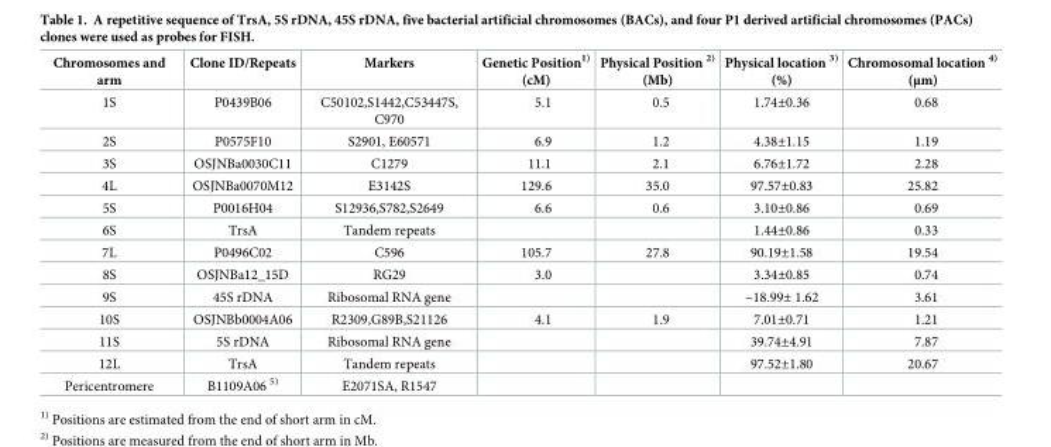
<table><thead><tr><td>Chromosomes and arm</td><td>Clone ID/Repeats</td><td>Markers</td><td>Genetic Position<sup>1)</sup> (cM)</td><td>Physical Position <sup>2)</sup> (Mb)</td><td>Physical location <sup>3)</sup> (%)</td><td>Chromosomal location <sup>4)</sup> (μm)</td></tr></thead><tbody><tr><td>1S</td><td>P0439B06</td><td>C50102,S1442,C53447S, C970</td><td>5.1</td><td>0.5</td><td>1.74±0.36</td><td>0.68</td></tr><tr><td>2S</td><td>P0575F10</td><td>S2901, E60571</td><td>6.9</td><td>1.2</td><td>4.38±1.15</td><td>1.19</td></tr><tr><td>3S</td><td>OSJNBa0030C11</td><td>C1279</td><td>11.1</td><td>2.1</td><td>6.76±1.72</td><td>2.28</td></tr><tr><td>4L</td><td>OSJNBa0070M12</td><td>E3142S</td><td>129.6</td><td>35.0</td><td>97.57±0.83</td><td>25.82</td></tr><tr><td>5S</td><td>P0016H04</td><td>S12936,S782,S2649</td><td>6.6</td><td>0.6</td><td>3.10±0.86</td><td>0.69</td></tr><tr><td>6S</td><td>TrsA</td><td>Tandem repeats</td><td></td><td></td><td>1.44±0.86</td><td>0.33</td></tr><tr><td>7L</td><td>P0496C02</td><td>C596</td><td>105.7</td><td>27.8</td><td>90.19±1.58</td><td>19.54</td></tr><tr><td>8S</td><td>OSJNBa12_15D</td><td>RG29</td><td>3.0</td><td></td><td>3.34±0.85</td><td>0.74</td></tr><tr><td>9S</td><td>45S rDNA</td><td>Ribosomal RNA gene</td><td></td><td></td><td>~18.99± 1.62</td><td>3.61</td></tr><tr><td>10S</td><td>OSJNBb0004A06</td><td>R2309,G89B,S21126</td><td>4.1</td><td>1.9</td><td>7.01±0.71</td><td>1.21</td></tr><tr><td>11S</td><td>5S rDNA</td><td>Ribosomal RNA gene</td><td></td><td></td><td>39.74±4.91</td><td>7.87</td></tr><tr><td>12L</td><td>TrsA</td><td>Tandem repeats</td><td></td><td></td><td>97.52±1.80</td><td>20.67</td></tr><tr><td>Pericentromere</td><td>B1109A06 <sup>5)</sup></td><td>E2071SA, R1547</td><td></td><td></td><td></td><td></td></tr></tbody></table>